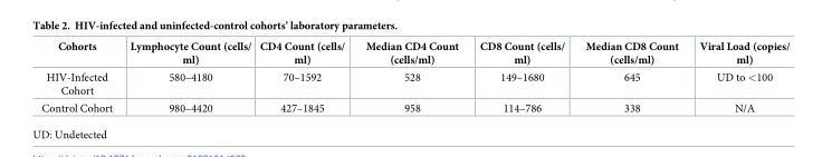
<table><thead><tr><td>Cohorts</td><td>Lymphocyte Count (cells/ ml)</td><td>CD4 Count (cells/ ml)</td><td>Median CD4 Count (cells/ml)</td><td>CD8 Count (cells/ ml)</td><td>Median CD8 Count (cells/ml)</td><td>Viral Load (copies/ ml)</td></tr></thead><tbody><tr><td>HIV-Infected Cohort</td><td>580–4180</td><td>70–1592</td><td>528</td><td>149–1680</td><td>645</td><td>UD to &lt;100</td></tr><tr><td>Control Cohort</td><td>980–4420</td><td>427–1845</td><td>958</td><td>114–786</td><td>338</td><td>N/A</td></tr></tbody></table>